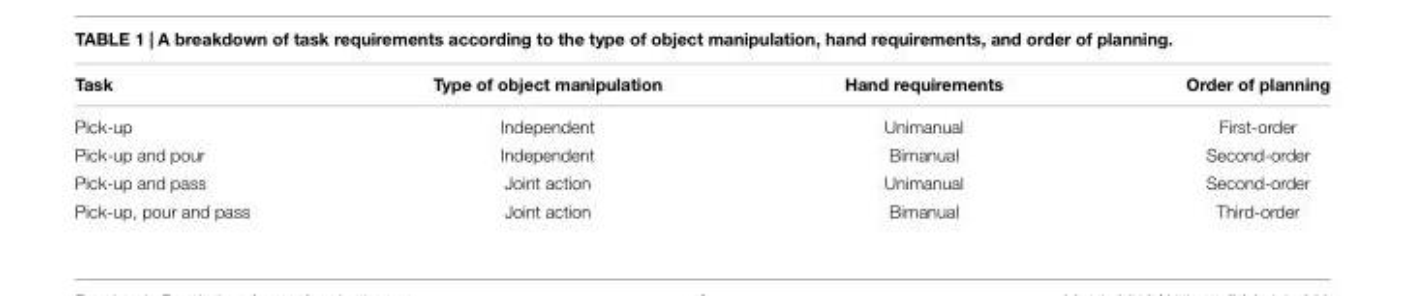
<table><thead><tr><td>Task</td><td>Type of object manipulation</td><td>Hand requirements</td><td>Order of planning</td></tr></thead><tbody><tr><td>Pick-up</td><td>Independent</td><td>Unimanual</td><td>First-order</td></tr><tr><td>Pick-up and pour</td><td>Independent</td><td>Bimanual</td><td>Second-order</td></tr><tr><td>Pick-up and pass</td><td>Joint action</td><td>Unimanual</td><td>Second-order</td></tr><tr><td>Pick-up, pour and pass</td><td>Joint action</td><td>Bimanual</td><td>Third-order</td></tr></tbody></table>